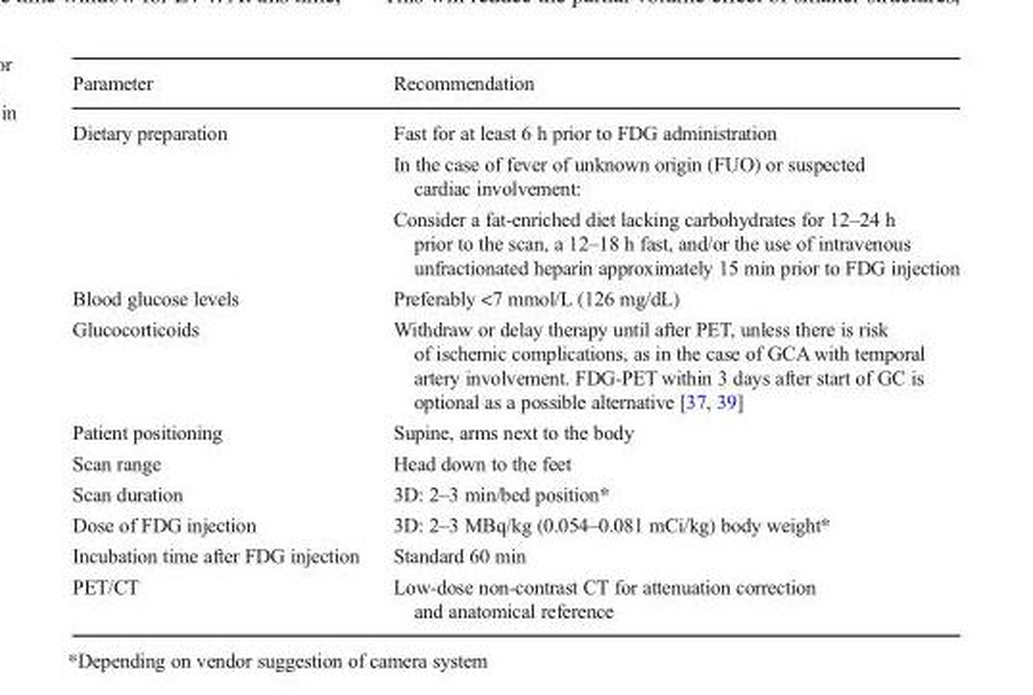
<table><thead><tr><td>Parameter</td><td>Recommendation</td></tr></thead><tbody><tr><td>Dietary preparation</td><td>Fast for at least 6 h prior to FDG administration In the case of fever of unknown origin (FUO) or suspected cardiac involvement: Consider a fat-enriched diet lacking carbohydrates for 12–24 h prior to the scan, a 12–18 h fast, and/or the use of intravenous unfractionated heparin approximately 15 min prior to FDG injection</td></tr><tr><td>Blood glucose levels</td><td>Preferably &lt;7 mmol/L (126 mg/dL)</td></tr><tr><td>Glucocorticoids</td><td>Withdraw or delay therapy until after PET, unless there is risk of ischemic complications, as in the case of GCA with temporal artery involvement. FDG-PET within 3 days after start of GC is optional as a possible alternative [37, 39]</td></tr><tr><td>Patient positioning</td><td>Supine, arms next to the body</td></tr><tr><td>Scan range</td><td>Head down to the feet</td></tr><tr><td>Scan duration</td><td>3D: 2–3 min/bed position*</td></tr><tr><td>Dose of FDG injection</td><td>3D: 2–3 MBq/kg (0.054–0.081 mCi/kg) body weight*</td></tr><tr><td>Incubation time after FDG injection</td><td>Standard 60 min</td></tr><tr><td>PET/CT</td><td>Low-dose non-contrast CT for attenuation correction and anatomical reference</td></tr></tbody></table>